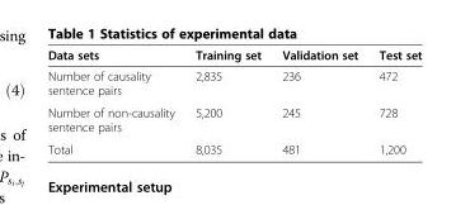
<table><thead><tr><td>Data sets</td><td>Training set</td><td>Validation set</td><td>Test set</td></tr></thead><tbody><tr><td>Number of causality sentence pairs</td><td>2,835</td><td>236</td><td>472</td></tr><tr><td>Number of non-causality sentence pairs</td><td>5,200</td><td>245</td><td>728</td></tr><tr><td>Total</td><td>8,035</td><td>481</td><td>1,200</td></tr></tbody></table>